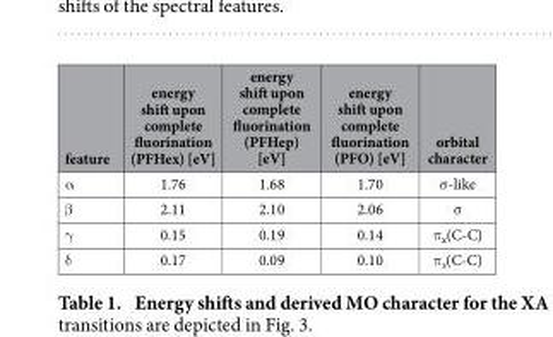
<table><thead><tr><td>feature</td><td>energy shift upon complete fluorination (PFHex) [eV]</td><td>energy shift upon complete fluorination (PFHep) [eV]</td><td>energy shift upon complete fluorination (PFO) [eV]</td><td>orbital character</td></tr></thead><tbody><tr><td>α</td><td>1.76</td><td>1.68</td><td>1.70</td><td>σ -like</td></tr><tr><td>β</td><td>2.11</td><td>2.10</td><td>2.06</td><td>σ</td></tr><tr><td>γ</td><td>0.15</td><td>0.19</td><td>0.14</td><td>π <sub>x</sub>(C-C)</td></tr><tr><td>δ</td><td>0.17</td><td>0.09</td><td>0.10</td><td>π <sub>z</sub>(C-C)</td></tr></tbody></table>